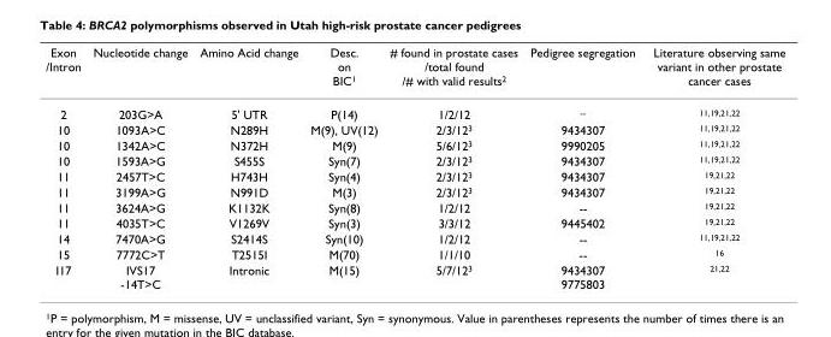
<table><thead><tr><td>Exon /Intron</td><td>Nucleotide change</td><td>Amino Acid change</td><td>Desc. on BIC<sup>1</sup></td><td># found in prostate cases /total found /# with valid results<sup>2</sup></td><td>Pedigree segregation</td><td>Literature observing same variant in other prostate cancer cases</td></tr></thead><tbody><tr><td>2</td><td>203G&gt;A</td><td>5&#x27; UTR</td><td>P(14)</td><td>1/2/12</td><td><sup>--</sup></td><td><sup>11,19,21,22</sup></td></tr><tr><td>10</td><td>1093A&gt;C</td><td>N289H</td><td>M(9), UV(12)</td><td>2/3/12<sup>3</sup></td><td>9434307</td><td><sup>11,19,21,22</sup></td></tr><tr><td>10</td><td>1342A&gt;C</td><td>N372H</td><td>M(9)</td><td>5/6/12<sup>3</sup></td><td>9990205</td><td><sup>11,19,21,22</sup></td></tr><tr><td>10</td><td>1593A&gt;G</td><td>S455S</td><td>Syn(7)</td><td>2/3/12<sup>3</sup></td><td>9434307</td><td><sup>11,19,21,22</sup></td></tr><tr><td>11</td><td>2457T&gt;C</td><td>H743H</td><td>Syn(4)</td><td>2/3/12<sup>3</sup></td><td>9434307</td><td><sup>19,21,22</sup></td></tr><tr><td>11</td><td>3199A&gt;G</td><td>N991D</td><td>M(3)</td><td>2/3/12<sup>3</sup></td><td>9434307</td><td><sup>19,21,22</sup></td></tr><tr><td>11</td><td>3624A&gt;G</td><td>K1132K</td><td>Syn(8)</td><td>1/2/12</td><td>--</td><td><sup>19,21,22</sup></td></tr><tr><td>11</td><td>4035T&gt;C</td><td>V1269V</td><td>Syn(3)</td><td>3/3/12</td><td>9445402</td><td><sup>19,21,22</sup></td></tr><tr><td>14</td><td>7470A&gt;G</td><td>S2414S</td><td>Syn(10)</td><td>1/2/12</td><td>--</td><td><sup>11,19,21,22</sup></td></tr><tr><td>15</td><td>7772C&gt;T</td><td>T2515I</td><td>M(70)</td><td>1/1/10</td><td>--</td><td><sup>16</sup></td></tr><tr><td>I17</td><td>IVS17 -14T&gt;C</td><td>Intronic</td><td>M(15)</td><td>5/7/12<sup>3</sup></td><td>9434307 9775803</td><td><sup>21,22</sup></td></tr></tbody></table>